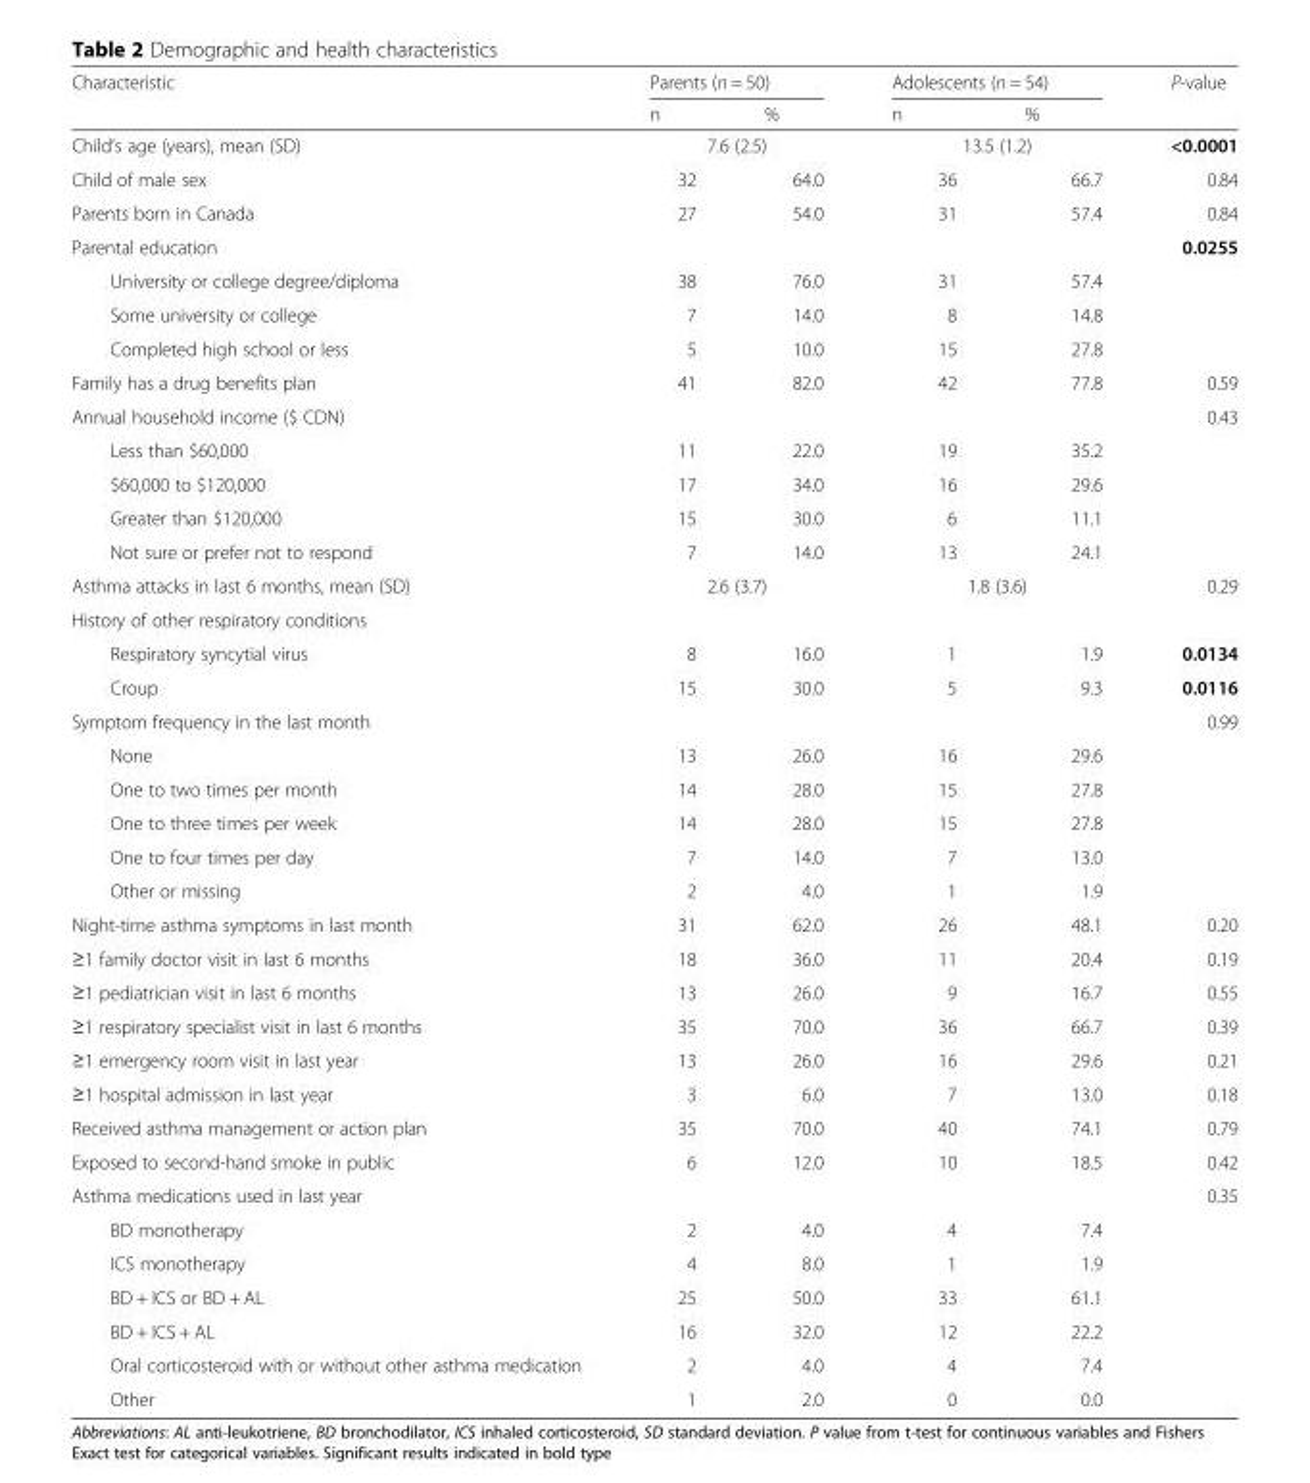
<table><thead><tr><td rowspan="2">Characteristic</td><td colspan="2">Parents (n = 50)</td><td colspan="2">Adolescents (n = 54)</td><td rowspan="2">P-value</td></tr><tr><td>n</td><td>%</td><td>n</td><td>%</td></tr></thead><tbody><tr><td>Child’s age (years), mean (SD)</td><td colspan="2">7.6 (2.5)</td><td colspan="2">13.5 (1.2)</td><td>&lt;0.0001</td></tr><tr><td>Child of male sex</td><td>32</td><td>64.0</td><td>36</td><td>66.7</td><td>0.84</td></tr><tr><td>Parents born in Canada</td><td>27</td><td>54.0</td><td>31</td><td>57.4</td><td>0.84</td></tr><tr><td colspan="5">Parental education</td><td>0.0255</td></tr><tr><td>University or college degree/diploma</td><td>38</td><td>76.0</td><td>31</td><td>57.4</td><td></td></tr><tr><td>Some university or college</td><td>7</td><td>14.0</td><td>8</td><td>14.8</td><td></td></tr><tr><td>Completed high school or less</td><td>5</td><td>10.0</td><td>15</td><td>27.8</td><td></td></tr><tr><td>Family has a drug benefits plan</td><td>41</td><td>82.0</td><td>42</td><td>77.8</td><td>0.59</td></tr><tr><td colspan="5">Annual household income ($ CDN)</td><td>0.43</td></tr><tr><td>Less than $60,000</td><td>11</td><td>22.0</td><td>19</td><td>35.2</td><td></td></tr><tr><td>$60,000 to $120,000</td><td>17</td><td>34.0</td><td>16</td><td>29.6</td><td></td></tr><tr><td>Greater than $120,000</td><td>15</td><td>30.0</td><td>6</td><td>11.1</td><td></td></tr><tr><td>Not sure or prefer not to respond</td><td>7</td><td>14.0</td><td>13</td><td>24.1</td><td></td></tr><tr><td>Asthma attacks in last 6 months, mean (SD)</td><td colspan="2">2.6 (3.7)</td><td colspan="2">1.8 (3.6)</td><td>0.29</td></tr><tr><td colspan="6">History of other respiratory conditions</td></tr><tr><td>Respiratory syncytial virus</td><td>8</td><td>16.0</td><td>1</td><td>1.9</td><td>0.0134</td></tr><tr><td>Croup</td><td>15</td><td>30.0</td><td>5</td><td>9.3</td><td>0.0116</td></tr><tr><td colspan="5">Symptom frequency in the last month</td><td>0.99</td></tr><tr><td>None</td><td>13</td><td>26.0</td><td>16</td><td>29.6</td><td></td></tr><tr><td>One to two times per month</td><td>14</td><td>28.0</td><td>15</td><td>27.8</td><td></td></tr><tr><td>One to three times per week</td><td>14</td><td>28.0</td><td>15</td><td>27.8</td><td></td></tr><tr><td>One to four times per day</td><td>7</td><td>14.0</td><td>7</td><td>13.0</td><td></td></tr><tr><td>Other or missing</td><td>2</td><td>4.0</td><td>1</td><td>1.9</td><td></td></tr><tr><td>Night-time asthma symptoms in last month</td><td>31</td><td>62.0</td><td>26</td><td>48.1</td><td>0.20</td></tr><tr><td>≥1 family doctor visit in last 6 months</td><td>18</td><td>36.0</td><td>11</td><td>20.4</td><td>0.19</td></tr><tr><td>≥1 pediatrician visit in last 6 months</td><td>13</td><td>26.0</td><td>9</td><td>16.7</td><td>0.55</td></tr><tr><td>≥1 respiratory specialist visit in last 6 months</td><td>35</td><td>70.0</td><td>36</td><td>66.7</td><td>0.39</td></tr><tr><td>≥1 emergency room visit in last year</td><td>13</td><td>26.0</td><td>16</td><td>29.6</td><td>0.21</td></tr><tr><td>≥1 hospital admission in last year</td><td>3</td><td>6.0</td><td>7</td><td>13.0</td><td>0.18</td></tr><tr><td>Received asthma management or action plan</td><td>35</td><td>70.0</td><td>40</td><td>74.1</td><td>0.79</td></tr><tr><td>Exposed to second-hand smoke in public</td><td>6</td><td>12.0</td><td>10</td><td>18.5</td><td>0.42</td></tr><tr><td colspan="5">Asthma medications used in last year</td><td>0.35</td></tr><tr><td>BD monotherapy</td><td>2</td><td>4.0</td><td>4</td><td>7.4</td><td></td></tr><tr><td>ICS monotherapy</td><td>4</td><td>8.0</td><td>1</td><td>1.9</td><td></td></tr><tr><td>BD + ICS or BD + AL</td><td>25</td><td>50.0</td><td>33</td><td>61.1</td><td></td></tr><tr><td>BD + ICS + AL</td><td>16</td><td>32.0</td><td>12</td><td>22.2</td><td></td></tr><tr><td>Oral corticosteroid with or without other asthma medication</td><td>2</td><td>4.0</td><td>4</td><td>7.4</td><td></td></tr><tr><td>Other</td><td>1</td><td>2.0</td><td>0</td><td>0.0</td><td></td></tr></tbody></table>